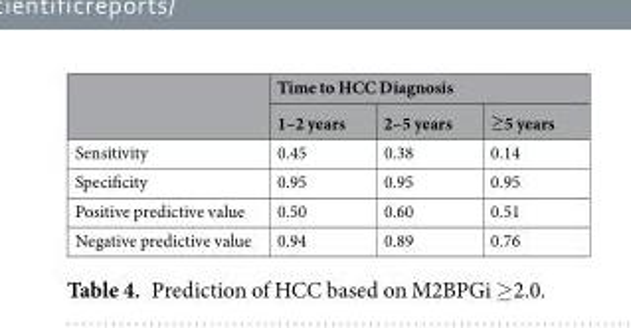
<table><thead><tr><td rowspan="2"></td><td colspan="3">Time to HCC Diagnosis</td></tr><tr><td>1–2 years</td><td>2–5 years</td><td>≥5 years</td></tr></thead><tbody><tr><td>Sensitivity</td><td>0.45</td><td>0.38</td><td>0.14</td></tr><tr><td>Specificity</td><td>0.95</td><td>0.95</td><td>0.95</td></tr><tr><td>Positive predictive value</td><td>0.50</td><td>0.60</td><td>0.51</td></tr><tr><td>Negative predictive value</td><td>0.94</td><td>0.89</td><td>0.76</td></tr></tbody></table>